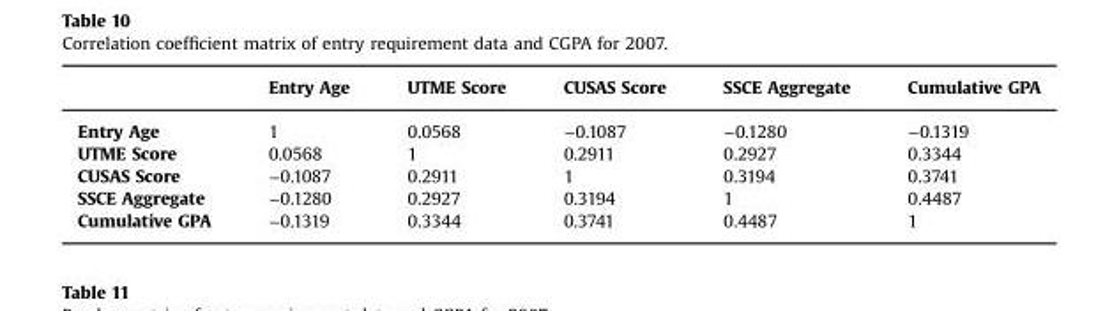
<table><thead><tr><td></td><td>Entry Age</td><td>UTME Score</td><td>CUSAS Score</td><td>SSCE Aggregate</td><td>Cumulative GPA</td></tr></thead><tbody><tr><td>Entry Age</td><td>1</td><td>0.0568</td><td>−0.1087</td><td>−0.1280</td><td>−0.1319</td></tr><tr><td>UTME Score</td><td>0.0568</td><td>1</td><td>0.2911</td><td>0.2927</td><td>0.3344</td></tr><tr><td>CUSAS Score</td><td>−0.1087</td><td>0.2911</td><td>1</td><td>0.3194</td><td>0.3741</td></tr><tr><td>SSCE Aggregate</td><td>−0.1280</td><td>0.2927</td><td>0.3194</td><td>1</td><td>0.4487</td></tr><tr><td>Cumulative GPA</td><td>−0.1319</td><td>0.3344</td><td>0.3741</td><td>0.4487</td><td>1</td></tr></tbody></table>